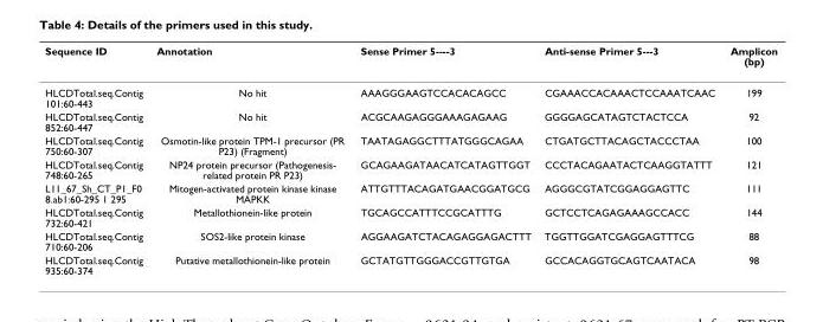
<table><thead><tr><td>Sequence ID</td><td>Annotation</td><td>Sense Primer 5----3</td><td>Anti-sense Primer 5---3</td><td>Amplicon (bp)</td></tr></thead><tbody><tr><td>HLCDTotal.seq.Contig 101:60-443</td><td>No hit</td><td>AAAGGGAAGTCCACACAGCC</td><td>CGAAACCACAAACTCCAAATCAAC</td><td>199</td></tr><tr><td>HLCDTotal.seq.Contig 852:60-447</td><td>No hit</td><td>ACGCAAGAGGGAAAGAGAAG</td><td>GGGGAGCATAGTCTACTCCA</td><td>92</td></tr><tr><td>HLCDTotal.seq.Contig 750:60-307</td><td>Osmotin-like protein TPM-1 precursor (PR P23) (Fragment)</td><td>TAATAGAGGCTTTATGGGCAGAA</td><td>CTGATGCTTACAGCTACCCTAA</td><td>100</td></tr><tr><td>HLCDTotal.seq.Contig 748:60-265</td><td>NP24 protein precursor (Pathogenesis- related protein PR P23)</td><td>GCAGAAGATAACATCATAGTTGGT</td><td>CCCTACAGAATACTCAAGGTATTT</td><td>121</td></tr><tr><td>L11_67_Sh_CT_P1_F0 8.ab1:60-295 1 295</td><td>Mitogen-activated protein kinase kinase MAPKK</td><td>ATTGTTTACAGATGAACGGATGCG</td><td>AGGGCGTATCGGAGGAGTTC</td><td>111</td></tr><tr><td>HLCDTotal.seq.Contig 732:60-421</td><td>Metallothionein-like protein</td><td>TGCAGCCATTTCCGCATTTG</td><td>GCTCCTCAGAGAAAGCCACC</td><td>144</td></tr><tr><td>HLCDTotal.seq.Contig 710:60-206</td><td>SOS2-like protein kinase</td><td>AGGAAGATCTACAGAGGAGACTTT</td><td>TGGTTGGATCGAGGAGTTTCG</td><td>88</td></tr><tr><td>HLCDTotal.seq.Contig 935:60-374</td><td>Putative metallothionein-like protein</td><td>GCTATGTTGGGACCGTTGTGA</td><td>GCCACAGGTGCAGTCAATACA</td><td>98</td></tr></tbody></table>